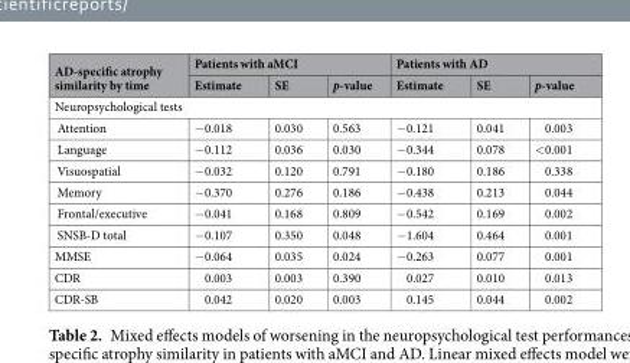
<table><thead><tr><td rowspan="2">AD-specific atrophy similarity by time</td><td colspan="3">Patients with aMCI</td><td colspan="3">Patients with AD</td></tr><tr><td>Estimate</td><td>SE</td><td>p-value</td><td>Estimate</td><td>SE</td><td>p-value</td></tr></thead><tbody><tr><td colspan="7">Neuropsychological tests</td></tr><tr><td>Attention</td><td>−0.018</td><td>0.030</td><td>0.563</td><td>−0.121</td><td>0.041</td><td>0.003</td></tr><tr><td>Language</td><td>−0.112</td><td>0.036</td><td>0.030</td><td>−0.344</td><td>0.078</td><td>&lt;0.001</td></tr><tr><td>Visuospatial</td><td>−0.032</td><td>0.120</td><td>0.791</td><td>−0.180</td><td>0.186</td><td>0.338</td></tr><tr><td>Memory</td><td>−0.370</td><td>0.276</td><td>0.186</td><td>−0.438</td><td>0.213</td><td>0.044</td></tr><tr><td>Frontal/executive</td><td>−0.041</td><td>0.168</td><td>0.809</td><td>−0.542</td><td>0.169</td><td>0.002</td></tr><tr><td>SNSB-D total</td><td>−0.107</td><td>0.350</td><td>0.048</td><td>−1.604</td><td>0.464</td><td>0.001</td></tr><tr><td>MMSE</td><td>−0.064</td><td>0.035</td><td>0.024</td><td>−0.263</td><td>0.077</td><td>0.001</td></tr><tr><td>CDR</td><td>0.003</td><td>0.003</td><td>0.390</td><td>0.027</td><td>0.010</td><td>0.013</td></tr><tr><td>CDR-SB</td><td>0.042</td><td>0.020</td><td>0.003</td><td>0.145</td><td>0.044</td><td>0.002</td></tr></tbody></table>